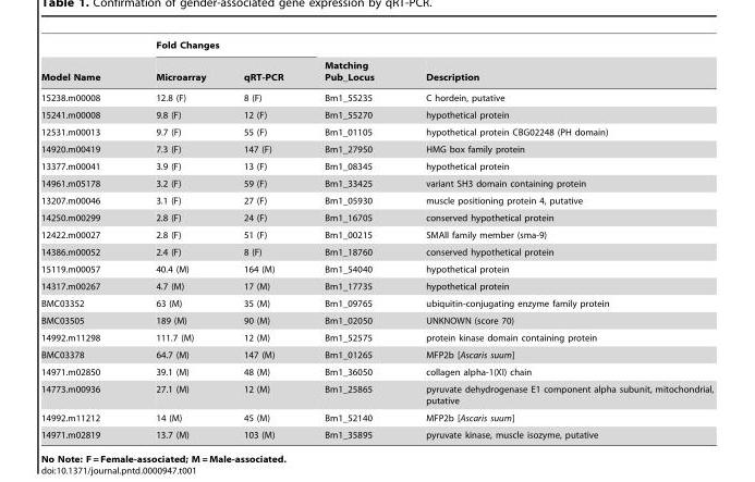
<table><thead><tr><td rowspan="2">Model Name</td><td colspan="2">Fold Changes</td><td rowspan="2">Matching Pub_Locus</td><td rowspan="2">Description</td></tr><tr><td>Microarray</td><td>qRT-PCR</td></tr></thead><tbody><tr><td>15238.m00008</td><td>12.8 (F)</td><td>8 (F)</td><td>Bm1_55235</td><td>C hordein, putative</td></tr><tr><td>15241.m00008</td><td>9.8 (F)</td><td>12 (F)</td><td>Bm1_55270</td><td>hypothetical protein</td></tr><tr><td>12531.m00013</td><td>9.7 (F)</td><td>55 (F)</td><td>Bm1_01105</td><td>hypothetical protein CBG02248 (PH domain)</td></tr><tr><td>14920.m00419</td><td>7.3 (F)</td><td>147 (F)</td><td>Bm1_27950</td><td>HMG box family protein</td></tr><tr><td>13377.m00041</td><td>3.9 (F)</td><td>13 (F)</td><td>Bm1_08345</td><td>hypothetical protein</td></tr><tr><td>14961.m05178</td><td>3.2 (F)</td><td>59 (F)</td><td>Bm1_33425</td><td>variant SH3 domain containing protein</td></tr><tr><td>13207.m00046</td><td>3.1 (F)</td><td>27 (F)</td><td>Bm1_05930</td><td>muscle positioning protein 4, putative</td></tr><tr><td>14250.m00299</td><td>2.8 (F)</td><td>24 (F)</td><td>Bm1_16705</td><td>conserved hypothetical protein</td></tr><tr><td>12422.m00027</td><td>2.8 (F)</td><td>51 (F)</td><td>Bm1_00215</td><td>SMAll family member (sma-9)</td></tr><tr><td>14386.m00052</td><td>2.4 (F)</td><td>8 (F)</td><td>Bm1_18760</td><td>conserved hypothetical protein</td></tr><tr><td>15119.m00057</td><td>40.4 (M)</td><td>164 (M)</td><td>Bm1_54040</td><td>hypothetical protein</td></tr><tr><td>14317.m00267</td><td>4.7 (M)</td><td>17 (M)</td><td>Bm1_17735</td><td>hypothetical protein</td></tr><tr><td>BMC03352</td><td>63 (M)</td><td>35 (M)</td><td>Bm1_09765</td><td>ubiquitin-conjugating enzyme family protein</td></tr><tr><td>BMC03505</td><td>189 (M)</td><td>90 (M)</td><td>Bm1_02050</td><td>UNKNOWN (score 70)</td></tr><tr><td>14992.m11298</td><td>111.7 (M)</td><td>12 (M)</td><td>Bm1_52575</td><td>protein kinase domain containing protein</td></tr><tr><td>BMC03378</td><td>64.7 (M)</td><td>147 (M)</td><td>Bm1_01265</td><td>MFP2b [Ascaris suum]</td></tr><tr><td>14971.m02850</td><td>39.1 (M)</td><td>48 (M)</td><td>Bm1_36050</td><td>collagen alpha-1(XI) chain</td></tr><tr><td>14773.m00936</td><td>27.1 (M)</td><td>12 (M)</td><td>Bm1_25865</td><td>pyruvate dehydrogenase E1 component alpha subunit, mitochondrial, putative</td></tr><tr><td>14992.m11212</td><td>14 (M)</td><td>45 (M)</td><td>Bm1_52140</td><td>MFP2b [Ascaris suum]</td></tr><tr><td>14971.m02819</td><td>13.7 (M)</td><td>103 (M)</td><td>Bm1_35895</td><td>pyruvate kinase, muscle isozyme, putative</td></tr></tbody></table>